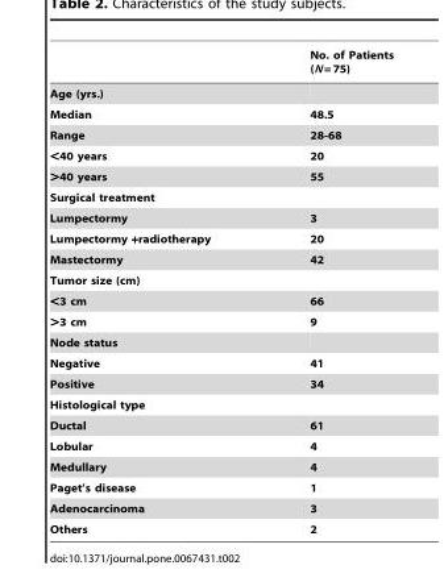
<table><thead><tr><td></td><td>No. of Patients (N = 75)</td></tr></thead><tbody><tr><td colspan="2">Age (yrs.)</td></tr><tr><td>Median</td><td>48.5</td></tr><tr><td>Range</td><td>28-68</td></tr><tr><td>&lt;40 years</td><td>20</td></tr><tr><td>&gt;40 years</td><td>55</td></tr><tr><td colspan="2">Surgical treatment</td></tr><tr><td>Lumpectormy</td><td>3</td></tr><tr><td>Lumpectormy +radiotherapy</td><td>20</td></tr><tr><td>Mastectormy</td><td>42</td></tr><tr><td colspan="2">Tumor size (cm)</td></tr><tr><td>&lt;3 cm</td><td>66</td></tr><tr><td>&gt;3 cm</td><td>9</td></tr><tr><td colspan="2">Node status</td></tr><tr><td>Negative</td><td>41</td></tr><tr><td>Positive</td><td>34</td></tr><tr><td colspan="2">Histological type</td></tr><tr><td>Ductal</td><td>61</td></tr><tr><td>Lobular</td><td>4</td></tr><tr><td>Medullary</td><td>4</td></tr><tr><td>Paget’s disease</td><td>1</td></tr><tr><td>Adenocarcinoma</td><td>3</td></tr><tr><td>Others</td><td>2</td></tr></tbody></table>